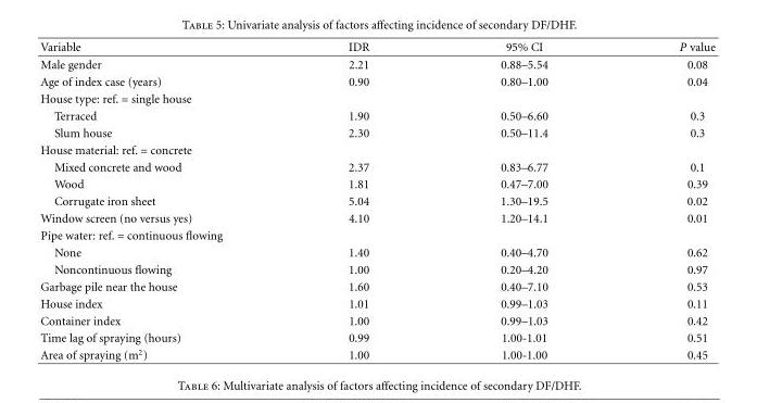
<table><thead><tr><td>Variable</td><td>IDR</td><td>95% CI</td><td>P value</td></tr></thead><tbody><tr><td>Male gender</td><td>2.21</td><td>0.88–5.54</td><td>0.08</td></tr><tr><td>Age of index case (years)</td><td>0.90</td><td>0.80–1.00</td><td>0.04</td></tr><tr><td colspan="4">House type: ref. = single house</td></tr><tr><td>Terraced</td><td>1.90</td><td>0.50–6.60</td><td>0.3</td></tr><tr><td>Slum house</td><td>2.30</td><td>0.50–11.4</td><td>0.3</td></tr><tr><td colspan="4">House material: ref. = concrete</td></tr><tr><td>Mixed concrete and wood</td><td>2.37</td><td>0.83–6.77</td><td>0.1</td></tr><tr><td>Wood</td><td>1.81</td><td>0.47–7.00</td><td>0.39</td></tr><tr><td>Corrugate iron sheet</td><td>5.04</td><td>1.30–19.5</td><td>0.02</td></tr><tr><td>Window screen (no versus yes)</td><td>4.10</td><td>1.20–14.1</td><td>0.01</td></tr><tr><td colspan="4">Pipe water: ref. = continuous flowing</td></tr><tr><td>None</td><td>1.40</td><td>0.40–4.70</td><td>0.62</td></tr><tr><td>Noncontinuous flowing</td><td>1.00</td><td>0.20–4.20</td><td>0.97</td></tr><tr><td>Garbage pile near the house</td><td>1.60</td><td>0.40–7.10</td><td>0.53</td></tr><tr><td>House index</td><td>1.01</td><td>0.99–1.03</td><td>0.11</td></tr><tr><td>Container index</td><td>1.00</td><td>0.99–1.03</td><td>0.42</td></tr><tr><td>Time lag of spraying (hours)</td><td>0.99</td><td>1.00-1.01</td><td>0.51</td></tr><tr><td>Area of spraying (m<sup>2</sup>)</td><td>1.00</td><td>1.00-1.00</td><td>0.45</td></tr></tbody></table>